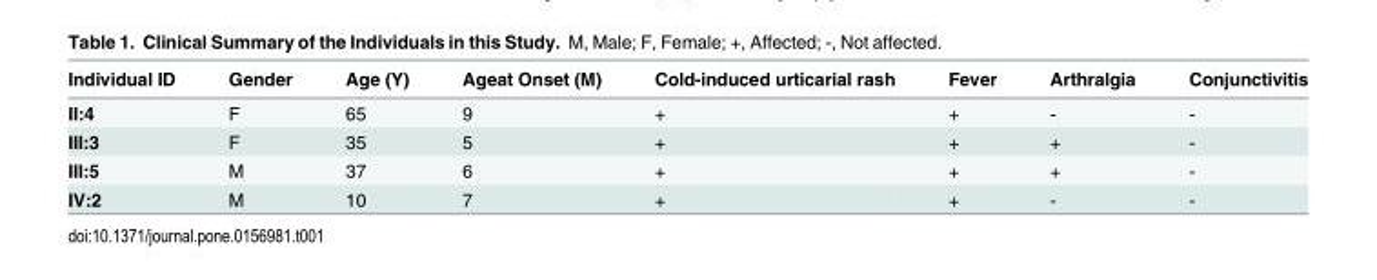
<table><thead><tr><td>Individual ID</td><td>Gender</td><td>Age (Y)</td><td>Ageat Onset (M)</td><td>Cold-induced urticarial rash</td><td>Fever</td><td>Arthralgia</td><td>Conjunctivitis</td></tr></thead><tbody><tr><td>II:4</td><td>F</td><td>65</td><td>9</td><td>+</td><td>+</td><td>-</td><td>-</td></tr><tr><td>III:3</td><td>F</td><td>35</td><td>5</td><td>+</td><td>+</td><td>+</td><td>-</td></tr><tr><td>III:5</td><td>M</td><td>37</td><td>6</td><td>+</td><td>+</td><td>+</td><td>-</td></tr><tr><td>IV:2</td><td>M</td><td>10</td><td>7</td><td>+</td><td>+</td><td>-</td><td>-</td></tr></tbody></table>